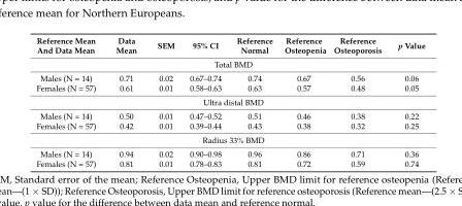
<table><thead><tr><td>Reference Mean And Data Mean</td><td>Data Mean</td><td>SEM</td><td>95% CI</td><td>Reference Normal</td><td>Reference Osteopenia</td><td>Reference Osteoporosis</td><td>p Value</td></tr></thead><tbody><tr><td colspan="8">Total BMD</td></tr><tr><td>Males (N = 14)</td><td>0.71</td><td>0.02</td><td>0.67–0.74</td><td>0.74</td><td>0.67</td><td>0.56</td><td>0.06</td></tr><tr><td>Females (N = 57)</td><td>0.61</td><td>0.01</td><td>0.58–0.63</td><td>0.63</td><td>0.57</td><td>0.48</td><td>0.05</td></tr><tr><td colspan="8">Ultra distal BMD</td></tr><tr><td>Males (N = 14)</td><td>0.50</td><td>0.01</td><td>0.47–0.52</td><td>0.51</td><td>0.46</td><td>0.38</td><td>0.22</td></tr><tr><td>Females (N = 57)</td><td>0.42</td><td>0.01</td><td>0.39–0.44</td><td>0.43</td><td>0.38</td><td>0.32</td><td>0.25</td></tr><tr><td colspan="8">Radius 33% BMD</td></tr><tr><td>Males (N = 14)</td><td>0.94</td><td>0.02</td><td>0.90–0.98</td><td>0.96</td><td>0.86</td><td>0.71</td><td>0.36</td></tr><tr><td>Females (N = 57)</td><td>0.81</td><td>0.01</td><td>0.78–0.83</td><td>0.81</td><td>0.72</td><td>0.59</td><td>0.74</td></tr></tbody></table>